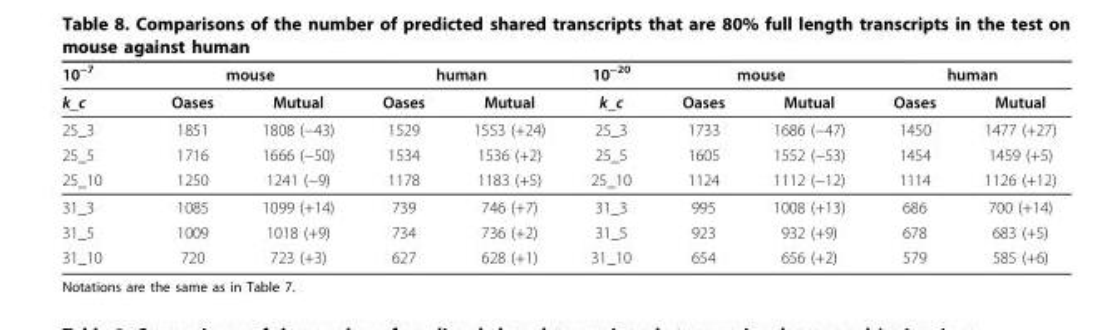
<table><thead><tr><td rowspan="2">10−7 k_c</td><td colspan="2">mouse</td><td colspan="2">human</td><td rowspan="2">10−20 k_c</td><td colspan="2">mouse</td><td colspan="2">human</td></tr><tr><td>Oases</td><td>Mutual</td><td>Oases</td><td>Mutual</td><td>Oases</td><td>Mutual</td><td>Oases</td><td>Mutual</td></tr></thead><tbody><tr><td>25_3</td><td>1851</td><td>1808 (−43)</td><td>1529</td><td>1553 (+24)</td><td>25_3</td><td>1733</td><td>1686 (−47)</td><td>1450</td><td>1477 (+27)</td></tr><tr><td>25_5</td><td>1716</td><td>1666 (−50)</td><td>1534</td><td>1536 (+2)</td><td>25_5</td><td>1605</td><td>1552 (−53)</td><td>1454</td><td>1459 (+5)</td></tr><tr><td>25_10</td><td>1250</td><td>1241 (−9)</td><td>1178</td><td>1183 (+5)</td><td>25_10</td><td>1124</td><td>1112 (−12)</td><td>1114</td><td>1126 (+12)</td></tr><tr><td>31_3</td><td>1085</td><td>1099 (+14)</td><td>739</td><td>746 (+7)</td><td>31_3</td><td>995</td><td>1008 (+13)</td><td>686</td><td>700 (+14)</td></tr><tr><td>31_5</td><td>1009</td><td>1018 (+9)</td><td>734</td><td>736 (+2)</td><td>31_5</td><td>923</td><td>932 (+9)</td><td>678</td><td>683 (+5)</td></tr><tr><td>31_10</td><td>720</td><td>723 (+3)</td><td>627</td><td>628 (+1)</td><td>31_10</td><td>654</td><td>656 (+2)</td><td>579</td><td>585 (+6)</td></tr></tbody></table>